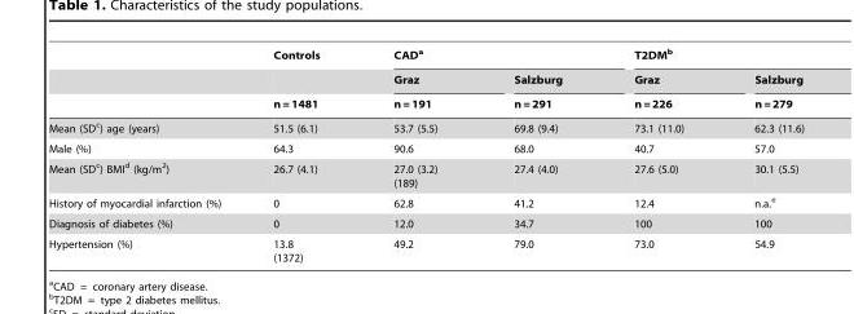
<table><thead><tr><td rowspan="3"></td><td rowspan="3">Controls n = 1481</td><td colspan="2">CAD<sup>a</sup></td><td colspan="2">T2DM<sup>b</sup></td></tr><tr><td rowspan="2">Graz n = 191</td><td rowspan="2">Salzburg n = 291</td><td rowspan="2">Graz n = 226</td><td rowspan="2">Salzburg n = 279</td></tr><tr></tr></thead><tbody><tr><td>Mean (SD<sup>c</sup>) age (years)</td><td>51.5 (6.1)</td><td>53.7 (5.5)</td><td>69.8 (9.4)</td><td>73.1 (11.0)</td><td>62.3 (11.6)</td></tr><tr><td>Male (%)</td><td>64.3</td><td>90.6</td><td>68.0</td><td>40.7</td><td>57.0</td></tr><tr><td>Mean (SD<sup>c</sup>) BMI<sup>d</sup> (kg/m<sup>2</sup>)</td><td>26.7 (4.1)</td><td>27.0 (3.2) (189)</td><td>27.4 (4.0)</td><td>27.6 (5.0)</td><td>30.1 (5.5)</td></tr><tr><td>History of myocardial infarction (%)</td><td>0</td><td>62.8</td><td>41.2</td><td>12.4</td><td>n.a.<sup>e</sup></td></tr><tr><td>Diagnosis of diabetes (%)</td><td>0</td><td>12.0</td><td>34.7</td><td>100</td><td>100</td></tr><tr><td>Hypertension (%)</td><td>13.8 (1372)</td><td>49.2</td><td>79.0</td><td>73.0</td><td>54.9</td></tr></tbody></table>